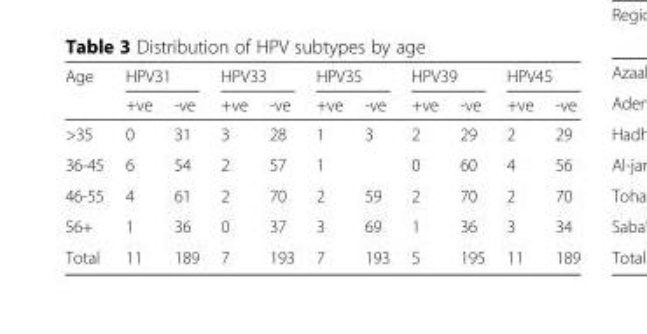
<table><thead><tr><td rowspan="2">Age</td><td colspan="2">HPV31</td><td colspan="2">HPV33</td><td colspan="2">HPV35</td><td colspan="2">HPV39</td><td colspan="2">HPV45</td></tr><tr><td>+ve</td><td>-ve</td><td>+ve</td><td>-ve</td><td>+ve</td><td>-ve</td><td>+ve</td><td>-ve</td><td>+ve</td><td>-ve</td></tr></thead><tbody><tr><td>&gt;35</td><td>0</td><td>31</td><td>3</td><td>28</td><td>1</td><td>3</td><td>2</td><td>29</td><td>2</td><td>29</td></tr><tr><td>36-45</td><td>6</td><td>54</td><td>2</td><td>57</td><td>1</td><td></td><td>0</td><td>60</td><td>4</td><td>56</td></tr><tr><td>46-55</td><td>4</td><td>61</td><td>2</td><td>70</td><td>2</td><td>59</td><td>2</td><td>70</td><td>2</td><td>70</td></tr><tr><td>56+</td><td>1</td><td>36</td><td>0</td><td>37</td><td>3</td><td>69</td><td>1</td><td>36</td><td>3</td><td>34</td></tr><tr><td>Total</td><td>11</td><td>189</td><td>7</td><td>193</td><td>7</td><td>193</td><td>5</td><td>195</td><td>11</td><td>189</td></tr></tbody></table>